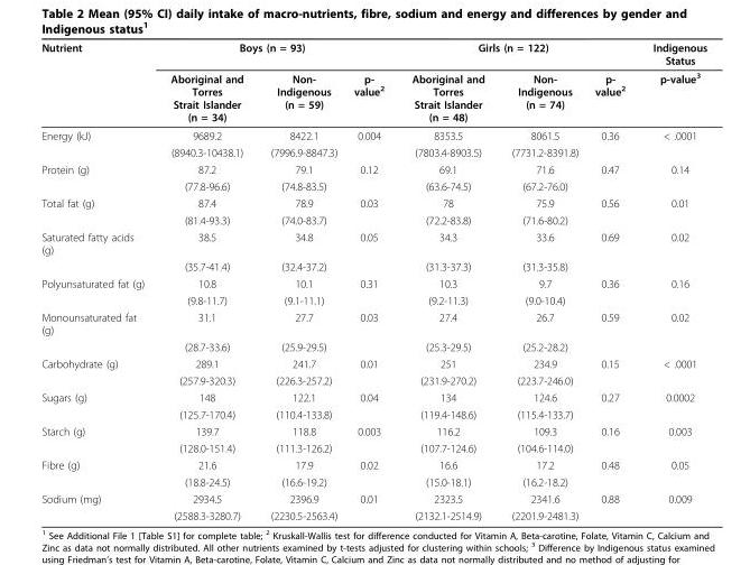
<table><thead><tr><td rowspan="2">Nutrient</td><td colspan="3">Boys (n = 93)</td><td colspan="3">Girls (n = 122)</td><td rowspan="2">Indigenous Status p-value<sup>3</sup></td></tr><tr><td>Aboriginal and Torres Strait Islander (n = 34)</td><td>Non- Indigenous (n = 59)</td><td>p- value<sup>2</sup></td><td>Aboriginal and Torres Strait Islander (n = 48)</td><td>Non- Indigenous (n = 74)</td><td>p- value<sup>2</sup></td></tr></thead><tbody><tr><td rowspan="2">Energy (kJ)</td><td>9689.2</td><td>8422.1</td><td>0.004</td><td>8353.5</td><td>8061.5</td><td>0.36</td><td>&lt; .0001</td></tr><tr><td>(8940.3-10438.1)</td><td>(7996.9-8847.3)</td><td></td><td>(7803.4-8903.5)</td><td>(7731.2-8391.8)</td><td></td><td></td></tr><tr><td rowspan="2">Protein (g)</td><td>87.2</td><td>79.1</td><td>0.12</td><td>69.1</td><td>71.6</td><td>0.47</td><td>0.14</td></tr><tr><td>(77.8-96.6)</td><td>(74.8-83.5)</td><td></td><td>(63.6-74.5)</td><td>(67.2-76.0)</td><td></td><td></td></tr><tr><td rowspan="2">Total fat (g)</td><td>87.4</td><td>78.9</td><td>0.03</td><td>78</td><td>75.9</td><td>0.56</td><td>0.01</td></tr><tr><td>(81.4-93.3)</td><td>(74.0-83.7)</td><td></td><td>(72.2-83.8)</td><td>(71.6-80.2)</td><td></td><td></td></tr><tr><td rowspan="2">Saturated fatty acids (g)</td><td>38.5</td><td>34.8</td><td>0.05</td><td>34.3</td><td>33.6</td><td>0.69</td><td>0.02</td></tr><tr><td>(35.7-41.4)</td><td>(32.4-37.2)</td><td></td><td>(31.3-37.3)</td><td>(31.3-35.8)</td><td></td><td></td></tr><tr><td rowspan="2">Polyunsaturated fat (g)</td><td>10.8</td><td>10.1</td><td>0.31</td><td>10.3</td><td>9.7</td><td>0.36</td><td>0.16</td></tr><tr><td>(9.8-11.7)</td><td>(9.1-11.1)</td><td></td><td>(9.2-11.3)</td><td>(9.0-10.4)</td><td></td><td></td></tr><tr><td rowspan="2">Monounsaturated fat (g)</td><td>31.1</td><td>27.7</td><td>0.03</td><td>27.4</td><td>26.7</td><td>0.59</td><td>0.02</td></tr><tr><td>(28.7-33.6)</td><td>(25.9-29.5)</td><td></td><td>(25.3-29.5)</td><td>(25.2-28.2)</td><td></td><td></td></tr><tr><td rowspan="2">Carbohydrate (g)</td><td>289.1</td><td>241.7</td><td>0.01</td><td>251</td><td>234.9</td><td>0.15</td><td>&lt; .0001</td></tr><tr><td>(257.9-320.3)</td><td>(226.3-257.2)</td><td></td><td>(231.9-270.2)</td><td>(223.7-246.0)</td><td></td><td></td></tr><tr><td rowspan="2">Sugars (g)</td><td>148</td><td>122.1</td><td>0.04</td><td>134</td><td>124.6</td><td>0.27</td><td>0.0002</td></tr><tr><td>(125.7-170.4)</td><td>(110.4-133.8)</td><td></td><td>(119.4-148.6)</td><td>(115.4-133.7)</td><td></td><td></td></tr><tr><td rowspan="2">Starch (g)</td><td>139.7</td><td>118.8</td><td>0.003</td><td>116.2</td><td>109.3</td><td>0.16</td><td>0.003</td></tr><tr><td>(128.0-151.4)</td><td>(111.3-126.2)</td><td></td><td>(107.7-124.6)</td><td>(104.6-114.0)</td><td></td><td></td></tr><tr><td rowspan="2">Fibre (g)</td><td>21.6</td><td>17.9</td><td>0.02</td><td>16.6</td><td>17.2</td><td>0.48</td><td>0.05</td></tr><tr><td>(18.8-24.5)</td><td>(16.6-19.2)</td><td></td><td>(15.0-18.1)</td><td>(16.2-18.2)</td><td></td><td></td></tr><tr><td rowspan="2">Sodium (mg)</td><td>2934.5</td><td>2396.9</td><td>0.01</td><td>2323.5</td><td>2341.6</td><td>0.88</td><td>0.009</td></tr><tr><td>(2588.3-3280.7)</td><td>(2230.5-2563.4)</td><td></td><td>(2132.1-2514.9)</td><td>(2201.9-2481.3)</td><td></td><td></td></tr></tbody></table>